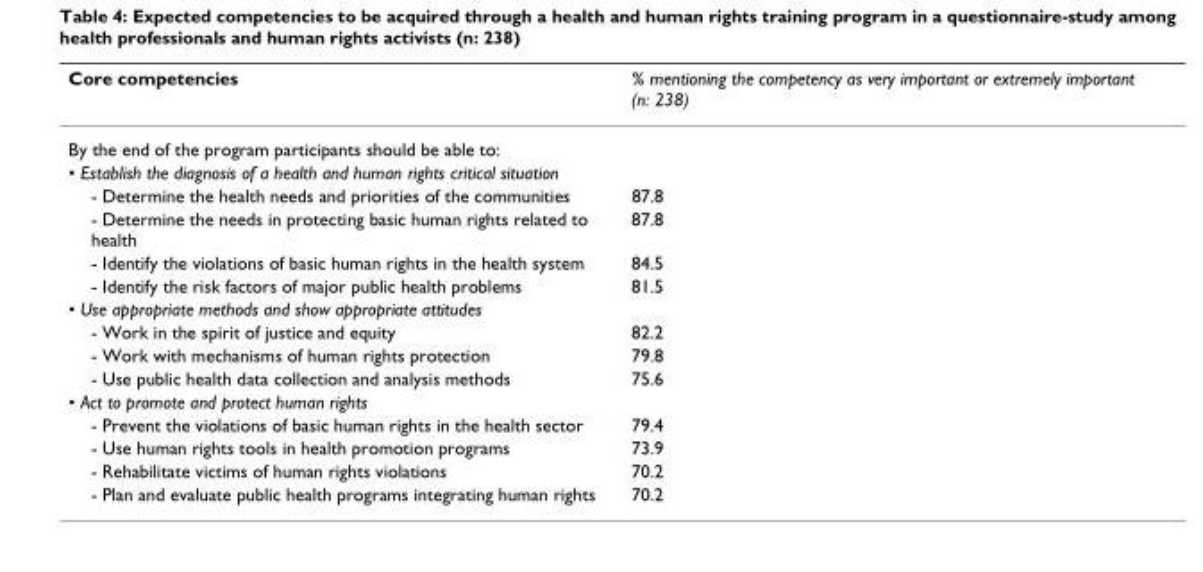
<table><thead><tr><td>Core competencies</td><td>% mentioning the competency as very important or extremely important (n: 238)</td></tr></thead><tbody><tr><td colspan="2">By the end of the program participants should be able to:</td></tr><tr><td colspan="2">• Establish the diagnosis of a health and human rights critical situation</td></tr><tr><td>- Determine the health needs and priorities of the communities</td><td>87.8</td></tr><tr><td>- Determine the needs in protecting basic human rights related to health</td><td>87.8</td></tr><tr><td>- Identify the violations of basic human rights in the health system</td><td>84.5</td></tr><tr><td>- Identify the risk factors of major public health problems</td><td>81.5</td></tr><tr><td colspan="2">• Use appropriate methods and show appropriate attitudes</td></tr><tr><td>- Work in the spirit of justice and equity</td><td>82.2</td></tr><tr><td>- Work with mechanisms of human rights protection</td><td>79.8</td></tr><tr><td>- Use public health data collection and analysis methods</td><td>75.6</td></tr><tr><td colspan="2">• Act to promote and protect human rights</td></tr><tr><td>- Prevent the violations of basic human rights in the health sector</td><td>79.4</td></tr><tr><td>- Use human rights tools in health promotion programs</td><td>73.9</td></tr><tr><td>- Rehabilitate victims of human rights violations</td><td>70.2</td></tr><tr><td>- Plan and evaluate public health programs integrating human rights</td><td>70.2</td></tr></tbody></table>